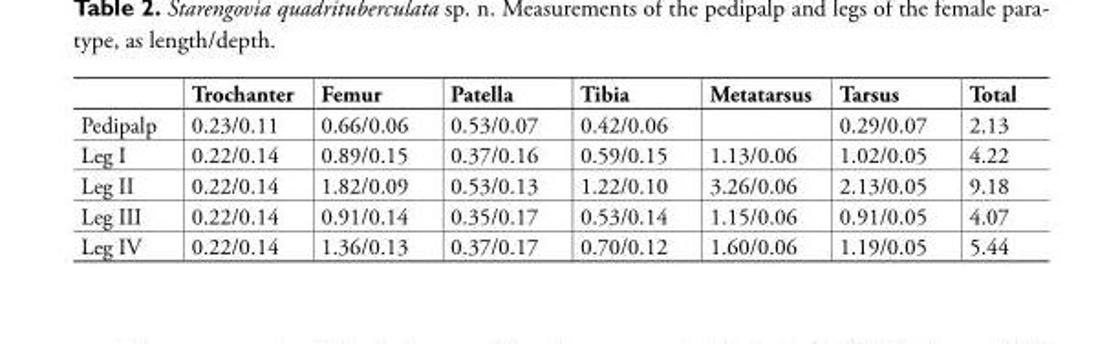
<table><thead><tr><td></td><td>Trochanter</td><td>Femur</td><td>Patella</td><td>Tibia</td><td>Metatarsus</td><td>Tarsus</td><td>Total</td></tr></thead><tbody><tr><td>Pedipalp</td><td>0.23/0.11</td><td>0.66/0.06</td><td>0.53/0.07</td><td>0.42/0.06</td><td></td><td>0.29/0.07</td><td>2.13</td></tr><tr><td>Leg I</td><td>0.22/0.14</td><td>0.89/0.15</td><td>0.37/0.16</td><td>0.59/0.15</td><td>1.13/0.06</td><td>1.02/0.05</td><td>4.22</td></tr><tr><td>Leg II</td><td>0.22/0.14</td><td>1.82/0.09</td><td>0.53/0.13</td><td>1.22/0.10</td><td>3.26/0.06</td><td>2.13/0.05</td><td>9.18</td></tr><tr><td>Leg III</td><td>0.22/0.14</td><td>0.91/0.14</td><td>0.35/0.17</td><td>0.53/0.14</td><td>1.15/0.06</td><td>0.91/0.05</td><td>4.07</td></tr><tr><td>Leg IV</td><td>0.22/0.14</td><td>1.36/0.13</td><td>0.37/0.17</td><td>0.70/0.12</td><td>1.60/0.06</td><td>1.19/0.05</td><td>5.44</td></tr></tbody></table>